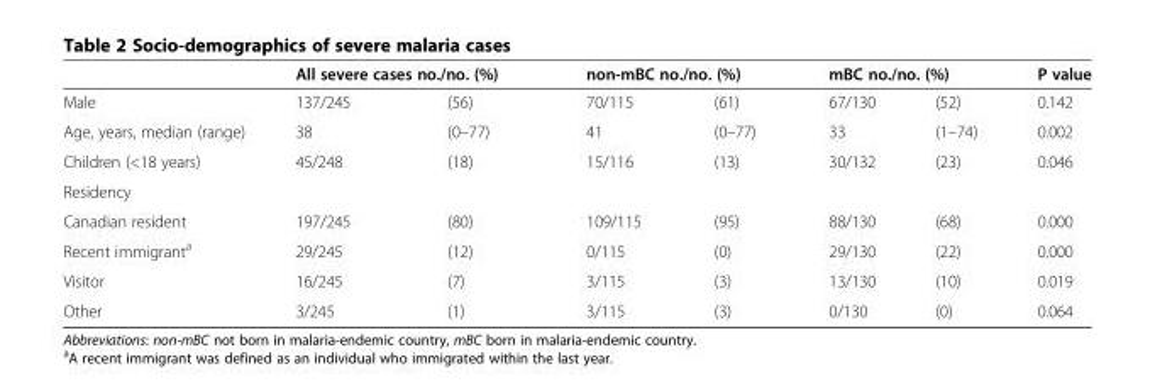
<table><thead><tr><td rowspan="2">Male</td><td colspan="2">All severe cases no./no. (%)</td><td colspan="2">non-mBC no./no. (%)</td><td colspan="2">mBC no./no. (%)</td><td rowspan="2">P value 0.142</td></tr><tr><td>137/245</td><td>(56)</td><td>70/115</td><td>(61)</td><td>67/130</td><td>(52)</td></tr></thead><tbody><tr><td>Age, years, median (range)</td><td>38</td><td>(0–77)</td><td>41</td><td>(0–77)</td><td>33</td><td>(1–74)</td><td>0.002</td></tr><tr><td>Children (&lt;18 years)</td><td>45/248</td><td>(18)</td><td>15/116</td><td>(13)</td><td>30/132</td><td>(23)</td><td>0.046</td></tr><tr><td colspan="8">Residency</td></tr><tr><td>Canadian resident</td><td>197/245</td><td>(80)</td><td>109/115</td><td>(95)</td><td>88/130</td><td>(68)</td><td>0.000</td></tr><tr><td>Recent immigrant<sup>a</sup></td><td>29/245</td><td>(12)</td><td>0/115</td><td>(0)</td><td>29/130</td><td>(22)</td><td>0.000</td></tr><tr><td>Visitor</td><td>16/245</td><td>(7)</td><td>3/115</td><td>(3)</td><td>13/130</td><td>(10)</td><td>0.019</td></tr><tr><td>Other</td><td>3/245</td><td>(1)</td><td>3/115</td><td>(3)</td><td>0/130</td><td>(0)</td><td>0.064</td></tr></tbody></table>